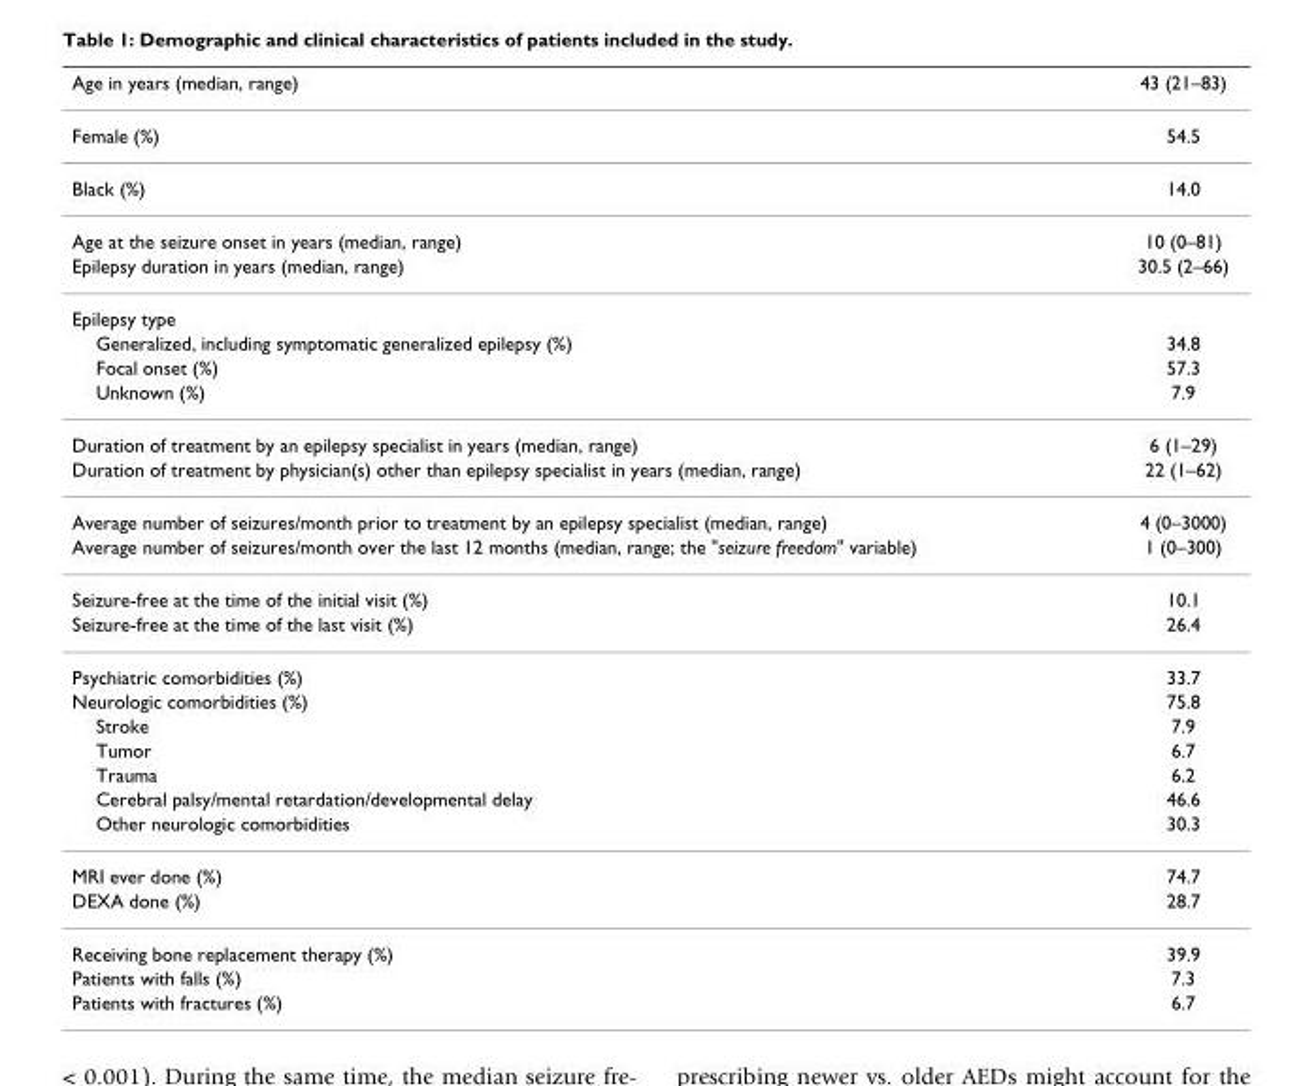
<table><thead><tr><td>Age in years (median, range)</td><td>43 (21–83)</td></tr></thead><tbody><tr><td>Female (%)</td><td>54.5</td></tr><tr><td>Black (%)</td><td>14.0</td></tr><tr><td>Age at the seizure onset in years (median, range)</td><td>10 (0–81)</td></tr><tr><td>Epilepsy duration in years (median, range)</td><td>30.5 (2–66)</td></tr><tr><td colspan="2">Epilepsy type</td></tr><tr><td>Generalized, including symptomatic generalized epilepsy (%)</td><td>34.8</td></tr><tr><td>Focal onset (%)</td><td>57.3</td></tr><tr><td>Unknown (%)</td><td>7.9</td></tr><tr><td>Duration of treatment by an epilepsy specialist in years (median, range)</td><td>6 (1–29)</td></tr><tr><td>Duration of treatment by physician(s) other than epilepsy specialist in years (median, range)</td><td>22 (1–62)</td></tr><tr><td>Average number of seizures/month prior to treatment by an epilepsy specialist (median, range)</td><td>4 (0–3000)</td></tr><tr><td>Average number of seizures/month over the last 12 months (median, range; the &quot;seizure freedom&quot; variable)</td><td>1 (0–300)</td></tr><tr><td>Seizure-free at the time of the initial visit (%)</td><td>10.1</td></tr><tr><td>Seizure-free at the time of the last visit (%)</td><td>26.4</td></tr><tr><td>Psychiatric comorbidities (%)</td><td>33.7</td></tr><tr><td>Neurologic comorbidities (%)</td><td>75.8</td></tr><tr><td>Stroke</td><td>7.9</td></tr><tr><td>Tumor</td><td>6.7</td></tr><tr><td>Trauma</td><td>6.2</td></tr><tr><td>Cerebral palsy/mental retardation/developmental delay</td><td>46.6</td></tr><tr><td>Other neurologic comorbidities</td><td>30.3</td></tr><tr><td>MRI ever done (%)</td><td>74.7</td></tr><tr><td>DEXA done (%)</td><td>28.7</td></tr><tr><td>Receiving bone replacement therapy (%)</td><td>39.9</td></tr><tr><td>Patients with falls (%)</td><td>7.3</td></tr><tr><td>Patients with fractures (%)</td><td>6.7</td></tr></tbody></table>